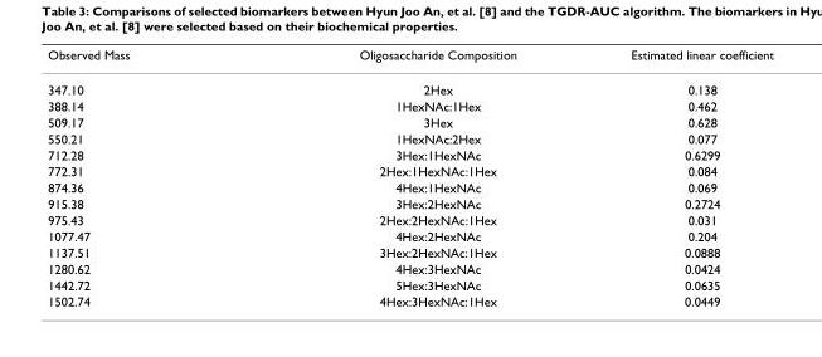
<table><thead><tr><td>Observed Mass</td><td>Oligosaccharide Composition</td><td>Estimated linear coefficient</td></tr></thead><tbody><tr><td>347.10</td><td>2Hex</td><td>0.138</td></tr><tr><td>388.14</td><td>1HexNAc:1Hex</td><td>0.462</td></tr><tr><td>509.17</td><td>3Hex</td><td>0.628</td></tr><tr><td>550.21</td><td>1HexNAc:2Hex</td><td>0.077</td></tr><tr><td>712.28</td><td>3Hex:1HexNAc</td><td>0.6299</td></tr><tr><td>772.31</td><td>2Hex:1HexNAc:1Hex</td><td>0.084</td></tr><tr><td>874.36</td><td>4Hex:1HexNAc</td><td>0.069</td></tr><tr><td>915.38</td><td>3Hex:2HexNAc</td><td>0.2724</td></tr><tr><td>975.43</td><td>2Hex:2HexNAc:1Hex</td><td>0.031</td></tr><tr><td>1077.47</td><td>4Hex:2HexNAc</td><td>0.204</td></tr><tr><td>1137.51</td><td>3Hex:2HexNAc:1Hex</td><td>0.0888</td></tr><tr><td>1280.62</td><td>4Hex:3HexNAc</td><td>0.0424</td></tr><tr><td>1442.72</td><td>5Hex:3HexNAc</td><td>0.0635</td></tr><tr><td>1502.74</td><td>4Hex:3HexNAc:1Hex</td><td>0.0449</td></tr></tbody></table>